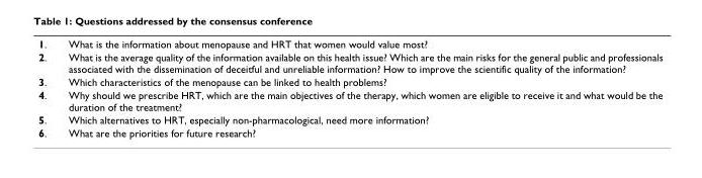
<table><tbody><tr><td>1.</td><td>What is the information about menopause and HRT that women would value most?</td></tr><tr><td>2.</td><td>What is the average quality of the information available on this health issue? Which are the main risks for the general public and professionals associated with the dissemination of deceitful and unreliable information? How to improve the scientific quality of the information?</td></tr><tr><td>3.</td><td>Which characteristics of the menopause can be linked to health problems?</td></tr><tr><td>4.</td><td>Why should we prescribe HRT, which are the main objectives of the therapy, which women are eligible to receive it and what would be the duration of the treatment?</td></tr><tr><td>5.</td><td>Which alternatives to HRT, especially non-pharmacological, need more information?</td></tr><tr><td>6.</td><td>What are the priorities for future research?</td></tr></tbody></table>